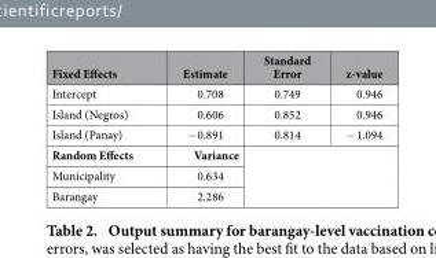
<table><thead><tr><td>Fixed Effects</td><td>Estimate</td><td>Standard Error</td><td>z-value</td></tr></thead><tbody><tr><td>Intercept</td><td>0.708</td><td>0.749</td><td>0.946</td></tr><tr><td>Island (Negros)</td><td>0.606</td><td>0.852</td><td>0.946</td></tr><tr><td>Island (Panay)</td><td>− 0.891</td><td>0.814</td><td>− 1.094</td></tr><tr><td>Random Effects</td><td>Variance</td><td rowspan="3" colspan="2"></td></tr><tr><td>Municipality</td><td>0.634</td></tr><tr><td>Barangay</td><td>2.286</td></tr></tbody></table>